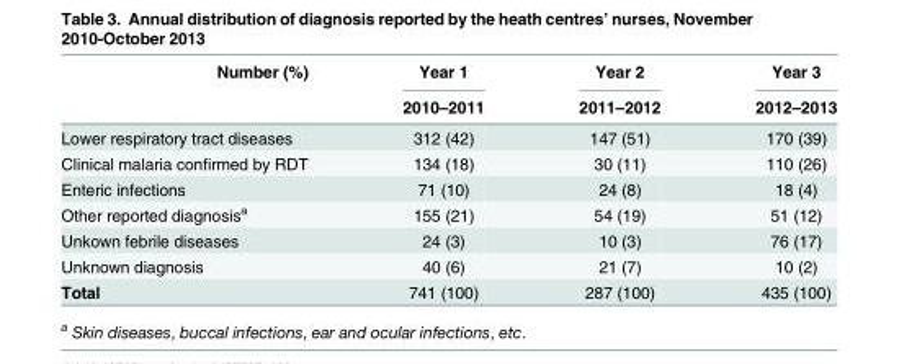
<table><thead><tr><td rowspan="2">Number (%)</td><td rowspan="2">Year 1 2010–2011</td><td rowspan="2">Year 2 2011–2012</td><td rowspan="2">Year 3 2012–2013</td></tr><tr></tr></thead><tbody><tr><td>Lower respiratory tract diseases</td><td>312 (42)</td><td>147 (51)</td><td>170 (39)</td></tr><tr><td>Clinical malaria confirmed by RDT</td><td>134 (18)</td><td>30 (11)</td><td>110 (26)</td></tr><tr><td>Enteric infections</td><td>71 (10)</td><td>24 (8)</td><td>18 (4)</td></tr><tr><td>Other reported diagnosis<sup>a</sup></td><td>155 (21)</td><td>54 (19)</td><td>51 (12)</td></tr><tr><td>Unkown febrile diseases</td><td>24 (3)</td><td>10 (3)</td><td>76 (17)</td></tr><tr><td>Unknown diagnosis</td><td>40 (6)</td><td>21 (7)</td><td>10 (2)</td></tr><tr><td>Total</td><td>741 (100)</td><td>287 (100)</td><td>435 (100)</td></tr></tbody></table>